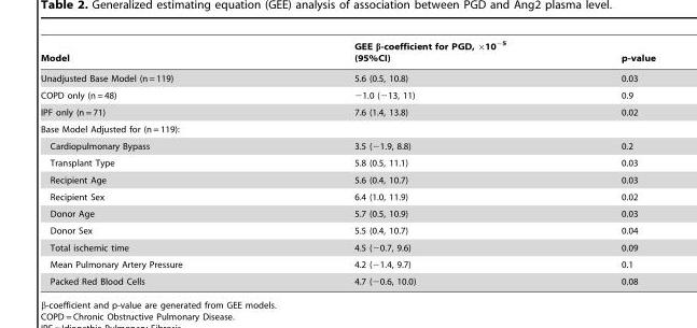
<table><thead><tr><td>Model</td><td>GEE β-coefficient for PGD, ×10<sup>−5</sup> (95%CI)</td><td>p-value</td></tr></thead><tbody><tr><td>Unadjusted Base Model (n = 119)</td><td>5.6 (0.5, 10.8)</td><td>0.03</td></tr><tr><td>COPD only (n = 48)</td><td>−1.0 (−13, 11)</td><td>0.9</td></tr><tr><td>IPF only (n = 71)</td><td>7.6 (1.4, 13.8)</td><td>0.02</td></tr><tr><td colspan="3">Base Model Adjusted for (n = 119):</td></tr><tr><td>Cardiopulmonary Bypass</td><td>3.5 (−1.9, 8.8)</td><td>0.2</td></tr><tr><td>Transplant Type</td><td>5.8 (0.5, 11.1)</td><td>0.03</td></tr><tr><td>Recipient Age</td><td>5.6 (0.4, 10.7)</td><td>0.03</td></tr><tr><td>Recipient Sex</td><td>6.4 (1.0, 11.9)</td><td>0.02</td></tr><tr><td>Donor Age</td><td>5.7 (0.5, 10.9)</td><td>0.03</td></tr><tr><td>Donor Sex</td><td>5.5 (0.4, 10.7)</td><td>0.04</td></tr><tr><td>Total ischemic time</td><td>4.5 (−0.7, 9.6)</td><td>0.09</td></tr><tr><td>Mean Pulmonary Artery Pressure</td><td>4.2 (−1.4, 9.7)</td><td>0.1</td></tr><tr><td>Packed Red Blood Cells</td><td>4.7 (−0.6, 10.0)</td><td>0.08</td></tr></tbody></table>